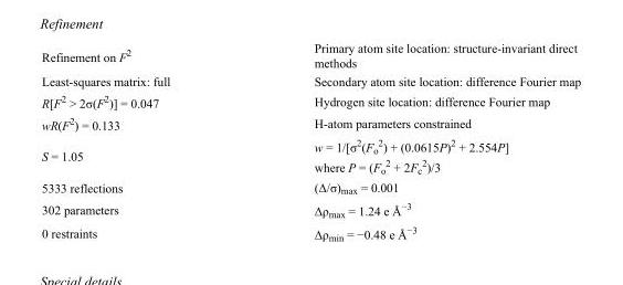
<table><tbody><tr><td>Refinement on F<sup>2</sup></td><td>Primary atom site location: structure-invariant direct methods</td></tr><tr><td>Least-squares matrix: full</td><td>Secondary atom site location: difference Fourier map</td></tr><tr><td>R[F<sup>2</sup> &gt; 2σ(F<sup>2</sup>)] = 0.047</td><td>Hydrogen site location: difference Fourier map</td></tr><tr><td>wR(F<sup>2</sup>) = 0.133</td><td>H-atom parameters constrained</td></tr><tr><td>S = 1.05</td><td>w = 1/[σ<sup>2</sup>(F<sub>o</sub> <sup>2</sup>) + (0.0615P)<sup>2</sup> + 2.554P] where P = (F<sub>o</sub> <sup>2</sup> + 2F<sub>c</sub> <sup>2</sup>)/3</td></tr><tr><td>5333 reflections</td><td>(Δ/σ)<sub>max</sub> = 0.001</td></tr><tr><td>302 parameters</td><td>Δρ<sub>max</sub> = 1.24 e Å<sup>−3</sup></td></tr><tr><td>0 restraints</td><td>Δρ<sub>min</sub> = −0.48 e Å<sup>−3</sup></td></tr></tbody></table>